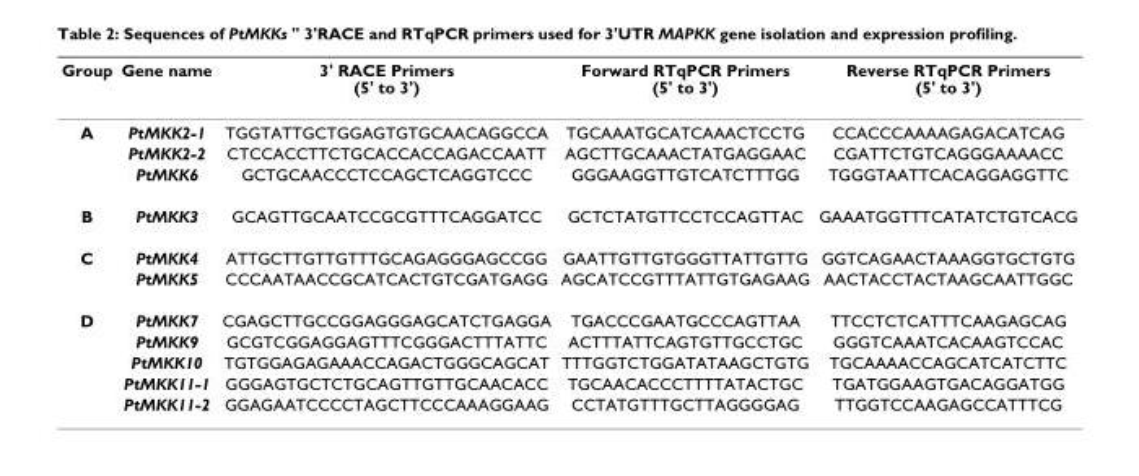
<table><thead><tr><td>Group</td><td>Gene name</td><td>3&#x27; RACE Primers (5&#x27; to 3&#x27;)</td><td>Forward RTqPCR Primers (5&#x27; to 3&#x27;)</td><td>Reverse RTqPCR Primers (5&#x27; to 3&#x27;)</td></tr></thead><tbody><tr><td rowspan="3">A</td><td>PtMKK2-1</td><td>TGGTATTGCTGGAGTGTGCAACAGGCCA</td><td>TGCAAATGCATCAAACTCCTG</td><td>CCACCCAAAAGAGACATCAG</td></tr><tr><td>PtMKK2-2</td><td>CTCCACCTTCTGCACCACCAGACCAATT</td><td>AGCTTGCAAACTATGAGGAAC</td><td>CGATTCTGTCAGGGAAAACC</td></tr><tr><td>PtMKK6</td><td>GCTGCAACCCTCCAGCTCAGGTCCC</td><td>GGGAAGGTTGTCATCTTTGG</td><td>TGGGTAATTCACAGGAGGTTC</td></tr><tr><td>B</td><td>PtMKK3</td><td>GCAGTTGCAATCCGCGTTTCAGGATCC</td><td>GCTCTATGTTCCTCCAGTTAC</td><td>GAAATGGTTTCATATCTGTCACG</td></tr><tr><td rowspan="2">C</td><td>PtMKK4</td><td>ATTGCTTGTTGTTTGCAGAGGGAGCCGG</td><td>GAATTGTTGTGGGTTATTGTTG</td><td>GGTCAGAACTAAAGGTGCTGTG</td></tr><tr><td>PtMKK5</td><td>CCCAATAACCGCATCACTGTCGATGAGG</td><td>AGCATCCGTTTATTGTGAGAAG</td><td>AACTACCTACTAAGCAATTGGC</td></tr><tr><td rowspan="5">D</td><td>PtMKK7</td><td>CGAGCTTGCCGGAGGGAGCATCTGAGGA</td><td>TGACCCGAATGCCCAGTTAA</td><td>TTCCTCTCATTTCAAGAGCAG</td></tr><tr><td>PtMKK9</td><td>GCGTCGGAGGAGTTTCGGGACTTTATTC</td><td>ACTTTATTCAGTGTTGCCTGC</td><td>GGGTCAAATCACAAGTCCAC</td></tr><tr><td>PtMKK10</td><td>TGTGGAGAGAAACCAGACTGGGCAGCAT</td><td>TTTGGTCTGGATATAAGCTGTG</td><td>TGCAAAACCAGCATCATCTTC</td></tr><tr><td>PtMKK11-1</td><td>GGGAGTGCTCTGCAGTTGTTGCAACACC</td><td>TGCAACACCCTTTTATACTGC</td><td>TGATGGAAGTGACAGGATGG</td></tr><tr><td>PtMKK11-2</td><td>GGAGAATCCCCTAGCTTCCCAAAGGAAG</td><td>CCTATGTTTGCTTAGGGGAG</td><td>TTGGTCCAAGAGCCATTTCG</td></tr></tbody></table>